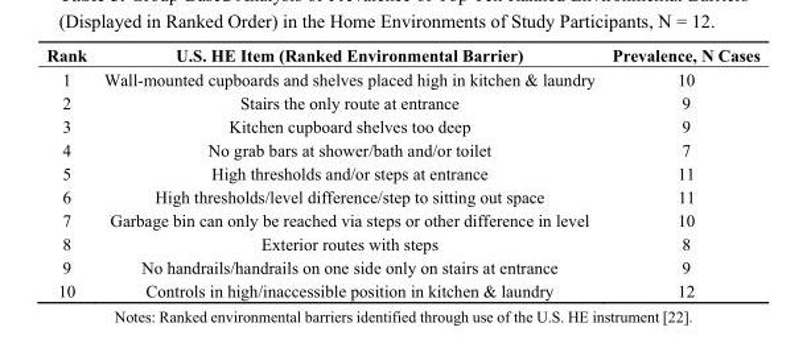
<table><thead><tr><td>Rank</td><td>U.S. HE Item (Ranked Environmental Barrier)</td><td>Prevalence, N Cases</td></tr></thead><tbody><tr><td>1</td><td>Wall-mounted cupboards and shelves placed high in kitchen &amp; laundry</td><td>10</td></tr><tr><td>2</td><td>Stairs the only route at entrance</td><td>9</td></tr><tr><td>3</td><td>Kitchen cupboard shelves too deep</td><td>9</td></tr><tr><td>4</td><td>No grab bars at shower/bath and/or toilet</td><td>7</td></tr><tr><td>5</td><td>High thresholds and/or steps at entrance</td><td>11</td></tr><tr><td>6</td><td>High thresholds/level difference/step to sitting out space</td><td>11</td></tr><tr><td>7</td><td>Garbage bin can only be reached via steps or other difference in level</td><td>10</td></tr><tr><td>8</td><td>Exterior routes with steps</td><td>8</td></tr><tr><td>9</td><td>No handrails/handrails on one side only on stairs at entrance</td><td>9</td></tr><tr><td>10</td><td>Controls in high/inaccessible position in kitchen &amp; laundry</td><td>12</td></tr></tbody></table>